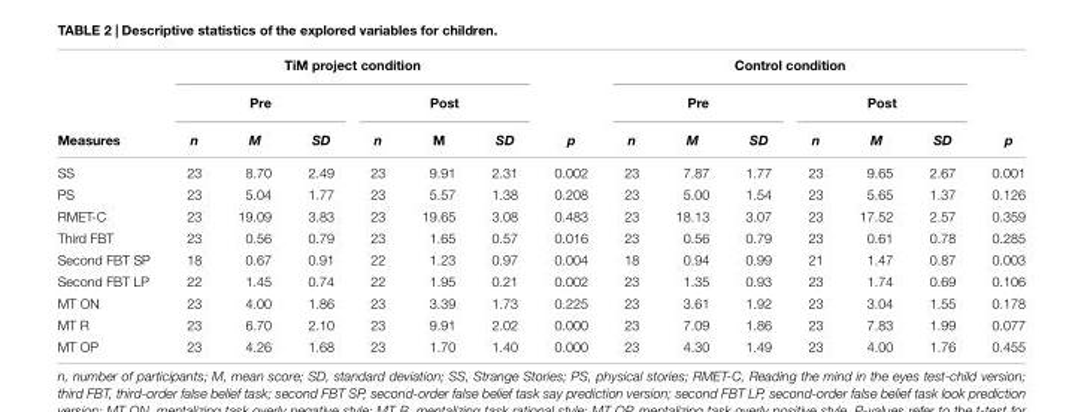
<table><thead><tr><td rowspan="3">Measures</td><td colspan="6">TiM project condition</td><td rowspan="3">p</td><td colspan="6">Control condition</td><td rowspan="3">p</td></tr><tr><td colspan="3">Pre</td><td colspan="3">Post</td><td colspan="3">Pre</td><td colspan="3">Post</td></tr><tr><td>n</td><td>M</td><td>SD</td><td>n</td><td>M</td><td>SD</td><td>n</td><td>M</td><td>SD</td><td>n</td><td>M</td><td>SD</td></tr></thead><tbody><tr><td>SS</td><td>23</td><td>8.70</td><td>2.49</td><td>23</td><td>9.91</td><td>2.31</td><td>0.002</td><td>23</td><td>7.87</td><td>1.77</td><td>23</td><td>9.65</td><td>2.67</td><td>0.001</td></tr><tr><td>PS</td><td>23</td><td>5.04</td><td>1.77</td><td>23</td><td>5.57</td><td>1.38</td><td>0.208</td><td>23</td><td>5.00</td><td>1.54</td><td>23</td><td>5.65</td><td>1.37</td><td>0.126</td></tr><tr><td>RMET-C</td><td>23</td><td>19.09</td><td>3.83</td><td>23</td><td>19.65</td><td>3.08</td><td>0.483</td><td>23</td><td>18.13</td><td>3.07</td><td>23</td><td>17.52</td><td>2.57</td><td>0.359</td></tr><tr><td>Third FBT</td><td>23</td><td>0.56</td><td>0.79</td><td>23</td><td>1.65</td><td>0.57</td><td>0.016</td><td>23</td><td>0.56</td><td>0.79</td><td>23</td><td>0.61</td><td>0.78</td><td>0.285</td></tr><tr><td>Second FBT SP</td><td>18</td><td>0.67</td><td>0.91</td><td>22</td><td>1.23</td><td>0.97</td><td>0.004</td><td>18</td><td>0.94</td><td>0.99</td><td>21</td><td>1.47</td><td>0.87</td><td>0.003</td></tr><tr><td>Second FBT LP</td><td>22</td><td>1.45</td><td>0.74</td><td>22</td><td>1.95</td><td>0.21</td><td>0.002</td><td>23</td><td>1.35</td><td>0.93</td><td>23</td><td>1.74</td><td>0.69</td><td>0.106</td></tr><tr><td>MT ON</td><td>23</td><td>4.00</td><td>1.86</td><td>23</td><td>3.39</td><td>1.73</td><td>0.225</td><td>23</td><td>3.61</td><td>1.92</td><td>23</td><td>3.04</td><td>1.55</td><td>0.178</td></tr><tr><td>MT R</td><td>23</td><td>6.70</td><td>2.10</td><td>23</td><td>9.91</td><td>2.02</td><td>0.000</td><td>23</td><td>7.09</td><td>1.86</td><td>23</td><td>7.83</td><td>1.99</td><td>0.077</td></tr><tr><td>MT OP</td><td>23</td><td>4.26</td><td>1.68</td><td>23</td><td>1.70</td><td>1.40</td><td>0.000</td><td>23</td><td>4.30</td><td>1.49</td><td>23</td><td>4.00</td><td>1.76</td><td>0.455</td></tr></tbody></table>